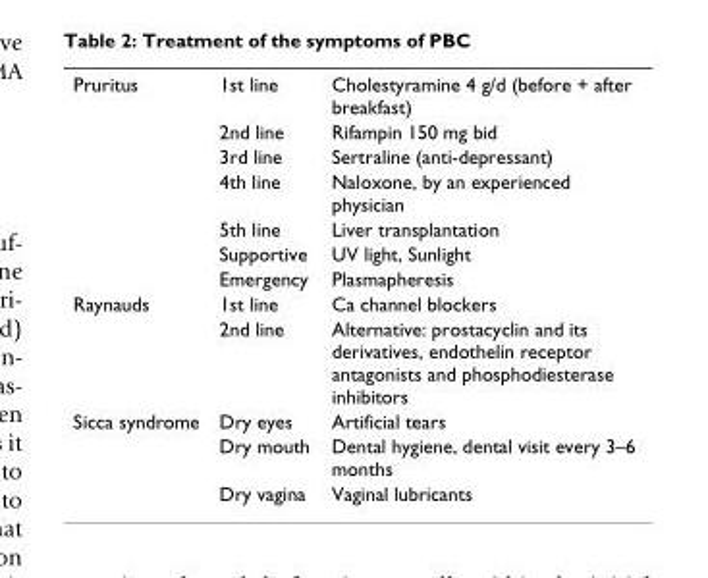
<table><tbody><tr><td rowspan="7">Pruritus</td><td>1st line</td><td>Cholestyramine 4 g/d (before + after breakfast)</td></tr><tr><td>2nd line</td><td>Rifampin 150 mg bid</td></tr><tr><td>3rd line</td><td>Sertraline (anti-depressant)</td></tr><tr><td>4th line</td><td>Naloxone, by an experienced physician</td></tr><tr><td>5th line</td><td>Liver transplantation</td></tr><tr><td>Supportive</td><td>UV light, Sunlight</td></tr><tr><td>Emergency</td><td>Plasmapheresis</td></tr><tr><td rowspan="2">Raynauds</td><td>1st line</td><td>Ca channel blockers</td></tr><tr><td>2nd line</td><td>Alternative: prostacyclin and its derivatives, endothelin receptor antagonists and phosphodiesterase inhibitors</td></tr><tr><td rowspan="3">Sicca syndrome</td><td>Dry eyes</td><td>Artificial tears</td></tr><tr><td>Dry mouth</td><td>Dental hygiene, dental visit every 3–6 months</td></tr><tr><td>Dry vagina</td><td>Vaginal lubricants</td></tr></tbody></table>